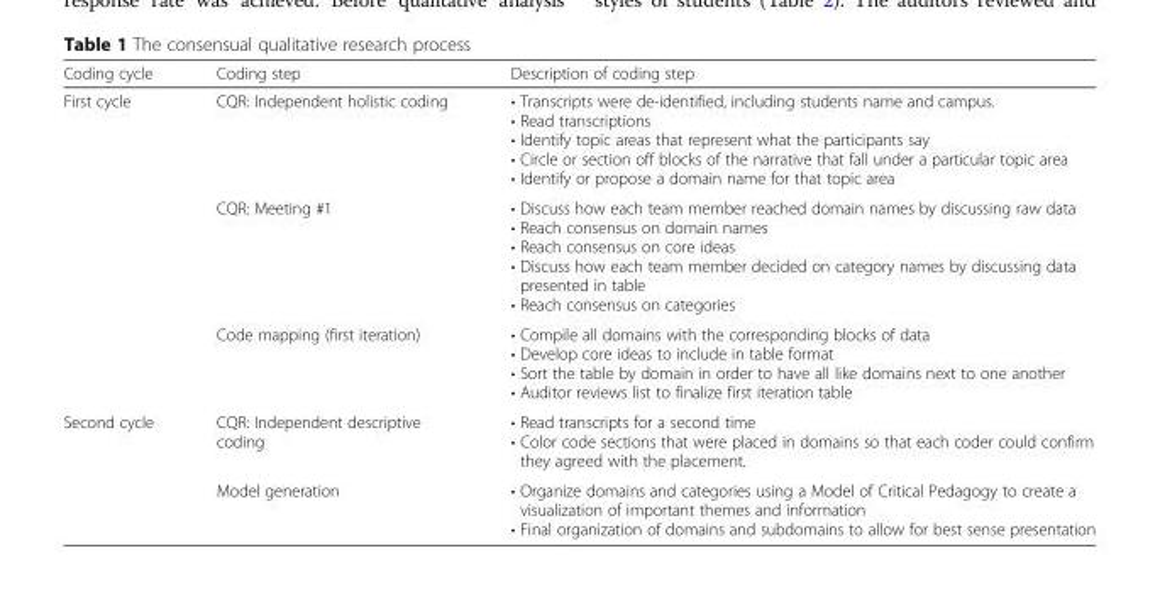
<table><thead><tr><td>Coding cycle</td><td>Coding step</td><td>Description of coding step</td></tr></thead><tbody><tr><td rowspan="3">First cycle</td><td>CQR: Independent holistic coding</td><td>• Transcripts were de-identified, including students name and campus. • Read transcriptions • Identify topic areas that represent what the participants say • Circle or section off blocks of the narrative that fall under a particular topic area • Identify or propose a domain name for that topic area</td></tr><tr><td>CQR: Meeting #1</td><td>• Discuss how each team member reached domain names by discussing raw data • Reach consensus on domain names • Reach consensus on core ideas • Discuss how each team member decided on category names by discussing data presented in table • Reach consensus on categories</td></tr><tr><td>Code mapping (first iteration)</td><td>• Compile all domains with the corresponding blocks of data • Develop core ideas to include in table format • Sort the table by domain in order to have all like domains next to one another • Auditor reviews list to finalize first iteration table</td></tr><tr><td rowspan="2">Second cycle</td><td>CQR: Independent descriptive coding</td><td>• Read transcripts for a second time • Color code sections that were placed in domains so that each coder could confirm they agreed with the placement.</td></tr><tr><td>Model generation</td><td>• Organize domains and categories using a Model of Critical Pedagogy to create a visualization of important themes and information • Final organization of domains and subdomains to allow for best sense presentation</td></tr></tbody></table>